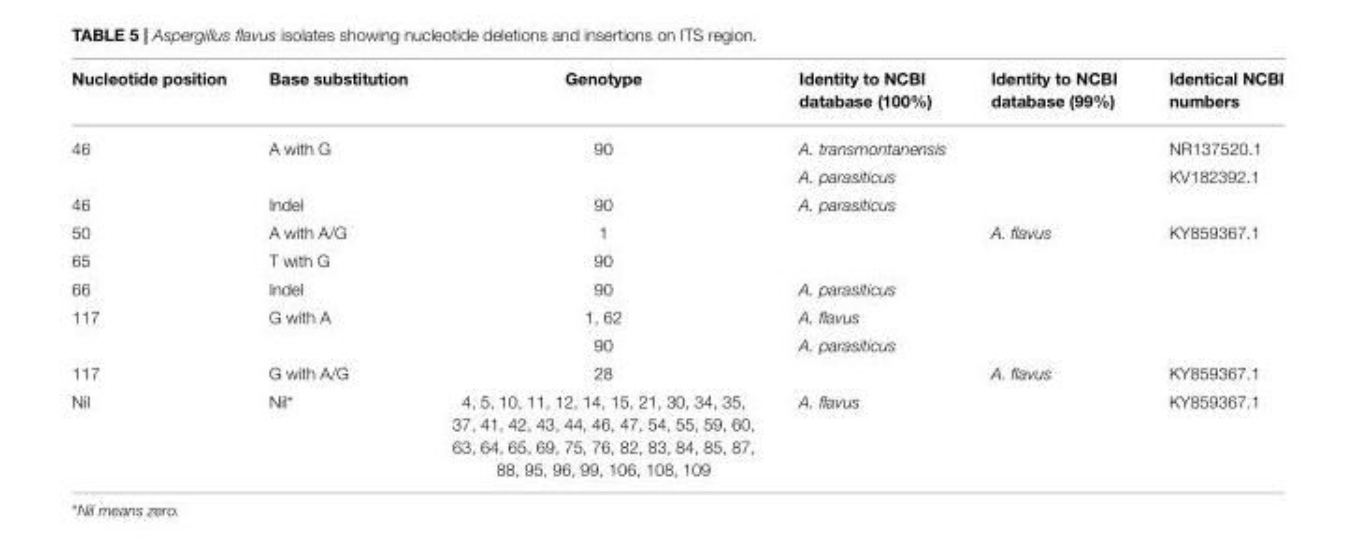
<table><thead><tr><td>Nucleotide position</td><td>Base substitution</td><td>Genotype</td><td>Identity to NCBI database (100%)</td><td>Identity to NCBI database (99%)</td><td>Identical NCBI numbers</td></tr></thead><tbody><tr><td rowspan="2">46</td><td>A with G</td><td>90</td><td>A. transmontanensis</td><td></td><td>NR137520.1</td></tr><tr><td></td><td></td><td>A. parasiticus</td><td></td><td>KV182392.1</td></tr><tr><td>46</td><td>Indel</td><td>90</td><td>A. parasiticus</td><td></td><td></td></tr><tr><td>50</td><td>A with A/G</td><td>1</td><td></td><td>A. flavus</td><td>KY859367.1</td></tr><tr><td>65</td><td>T with G</td><td>90</td><td></td><td></td><td></td></tr><tr><td>66</td><td>Indel</td><td>90</td><td>A. parasiticus</td><td></td><td></td></tr><tr><td rowspan="2">117</td><td>G with A</td><td>1, 62</td><td>A. flavus</td><td></td><td></td></tr><tr><td></td><td>90</td><td>A. parasiticus</td><td></td><td></td></tr><tr><td>117</td><td>G with A/G</td><td>28</td><td></td><td>A. flavus</td><td>KY859367.1</td></tr><tr><td>Nil</td><td>Nil*</td><td>4, 5, 10, 11, 12, 14, 15, 21, 30, 34, 35, 37, 41, 42, 43, 44, 46, 47, 54, 55, 59, 60, 63, 64, 65, 69, 75, 76, 82, 83, 84, 85, 87, 88, 95, 96, 99, 106, 108, 109</td><td>A. flavus</td><td></td><td>KY859367.1</td></tr></tbody></table>